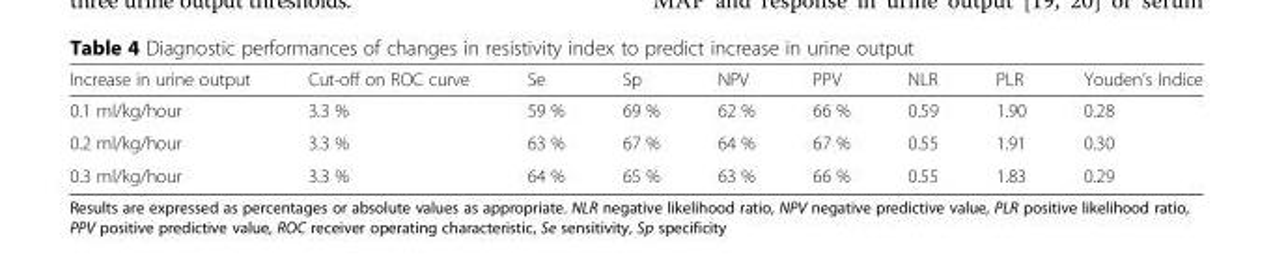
<table><thead><tr><td>Increase in urine output</td><td>Cut-off on ROC curve</td><td>Se</td><td>Sp</td><td>NPV</td><td>PPV</td><td>NLR</td><td>PLR</td><td>Youden’s Indice</td></tr></thead><tbody><tr><td>0.1 ml/kg/hour</td><td>3.3 %</td><td>59 %</td><td>69 %</td><td>62 %</td><td>66 %</td><td>0.59</td><td>1.90</td><td>0.28</td></tr><tr><td>0.2 ml/kg/hour</td><td>3.3 %</td><td>63 %</td><td>67 %</td><td>64 %</td><td>67 %</td><td>0.55</td><td>1.91</td><td>0.30</td></tr><tr><td>0.3 ml/kg/hour</td><td>3.3 %</td><td>64 %</td><td>65 %</td><td>63 %</td><td>66 %</td><td>0.55</td><td>1.83</td><td>0.29</td></tr></tbody></table>